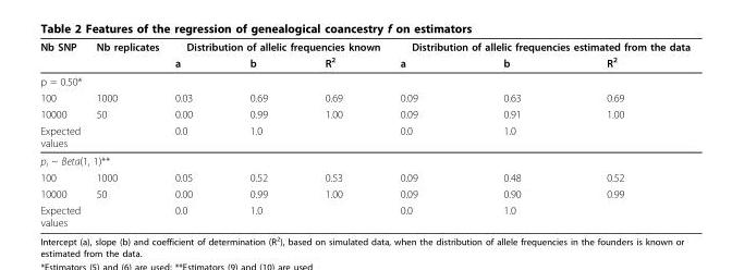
<table><thead><tr><td rowspan="2">Nb SNP</td><td rowspan="2">Nb replicates</td><td colspan="3">Distribution of allelic frequencies known</td><td colspan="3">Distribution of allelic frequencies estimated from the data</td></tr><tr><td>a</td><td>b</td><td>R<sup>2</sup></td><td>a</td><td>b</td><td>R<sup>2</sup></td></tr></thead><tbody><tr><td colspan="8">p = 0.50*</td></tr><tr><td>100</td><td>1000</td><td>0.03</td><td>0.69</td><td>0.69</td><td>0.09</td><td>0.63</td><td>0.69</td></tr><tr><td>10000</td><td>50</td><td>0.00</td><td>0.99</td><td>1.00</td><td>0.09</td><td>0.91</td><td>1.00</td></tr><tr><td>Expected values</td><td></td><td>0.0</td><td>1.0</td><td></td><td>0.0</td><td>1.0</td><td></td></tr><tr><td colspan="8">p<sub>i</sub> ~ Beta(1, 1)**</td></tr><tr><td>100</td><td>1000</td><td>0.05</td><td>0.52</td><td>0.53</td><td>0.09</td><td>0.48</td><td>0.52</td></tr><tr><td>10000</td><td>50</td><td>0.00</td><td>0.99</td><td>1.00</td><td>0.09</td><td>0.90</td><td>0.99</td></tr><tr><td>Expected values</td><td></td><td>0.0</td><td>1.0</td><td></td><td>0.0</td><td>1.0</td><td></td></tr></tbody></table>